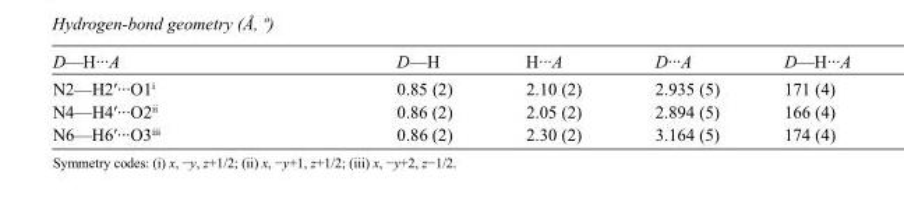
<table><tbody><tr><td>D—H···A</td><td>D—H</td><td>H···A</td><td>D···A</td><td>D—H···A</td></tr><tr><td>N2—H2′···O1<sup>i</sup></td><td>0.85 (2)</td><td>2.10 (2)</td><td>2.935 (5)</td><td>171 (4)</td></tr><tr><td>N4—H4′···O2<sup>ii</sup></td><td>0.86 (2)</td><td>2.05 (2)</td><td>2.894 (5)</td><td>166 (4)</td></tr><tr><td>N6—H6′···O3<sup>iii</sup></td><td>0.86 (2)</td><td>2.30 (2)</td><td>3.164 (5)</td><td>174 (4)</td></tr></tbody></table>